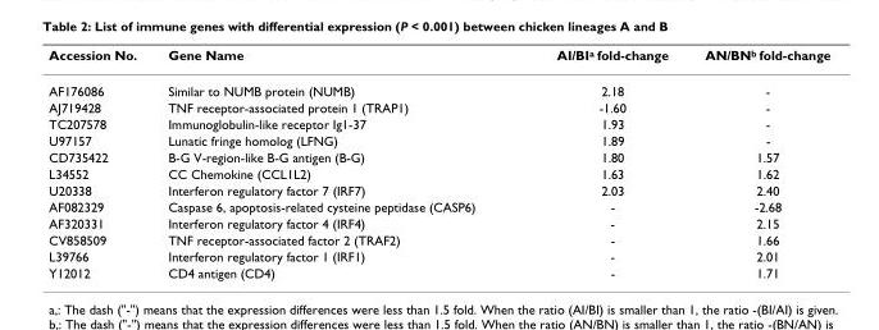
<table><thead><tr><td>Accession No.</td><td>Gene Name</td><td>AI/BI<sup>a</sup> fold-change</td><td>AN/BN<sup>b</sup> fold-change</td></tr></thead><tbody><tr><td>AF176086</td><td>Similar to NUMB protein (NUMB)</td><td>2.18</td><td>-</td></tr><tr><td>AJ719428</td><td>TNF receptor-associated protein 1 (TRAP1)</td><td>-1.60</td><td>-</td></tr><tr><td>TC207578</td><td>Immunoglobulin-like receptor Ig1-37</td><td>1.93</td><td>-</td></tr><tr><td>U97157</td><td>Lunatic fringe homolog (LFNG)</td><td>1.89</td><td>-</td></tr><tr><td>CD735422</td><td>B-G V-region-like B-G antigen (B-G)</td><td>1.80</td><td>1.57</td></tr><tr><td>L34552</td><td>CC Chemokine (CCL1L2)</td><td>1.63</td><td>1.62</td></tr><tr><td>U20338</td><td>Interferon regulatory factor 7 (IRF7)</td><td>2.03</td><td>2.40</td></tr><tr><td>AF082329</td><td>Caspase 6, apoptosis-related cysteine peptidase (CASP6)</td><td>-</td><td>-2.68</td></tr><tr><td>AF320331</td><td>Interferon regulatory factor 4 (IRF4)</td><td>-</td><td>2.15</td></tr><tr><td>CV858509</td><td>TNF receptor-associated factor 2 (TRAF2)</td><td>-</td><td>1.66</td></tr><tr><td>L39766</td><td>Interferon regulatory factor 1 (IRF1)</td><td>-</td><td>2.01</td></tr><tr><td>Y12012</td><td>CD4 antigen (CD4)</td><td>-</td><td>1.71</td></tr></tbody></table>